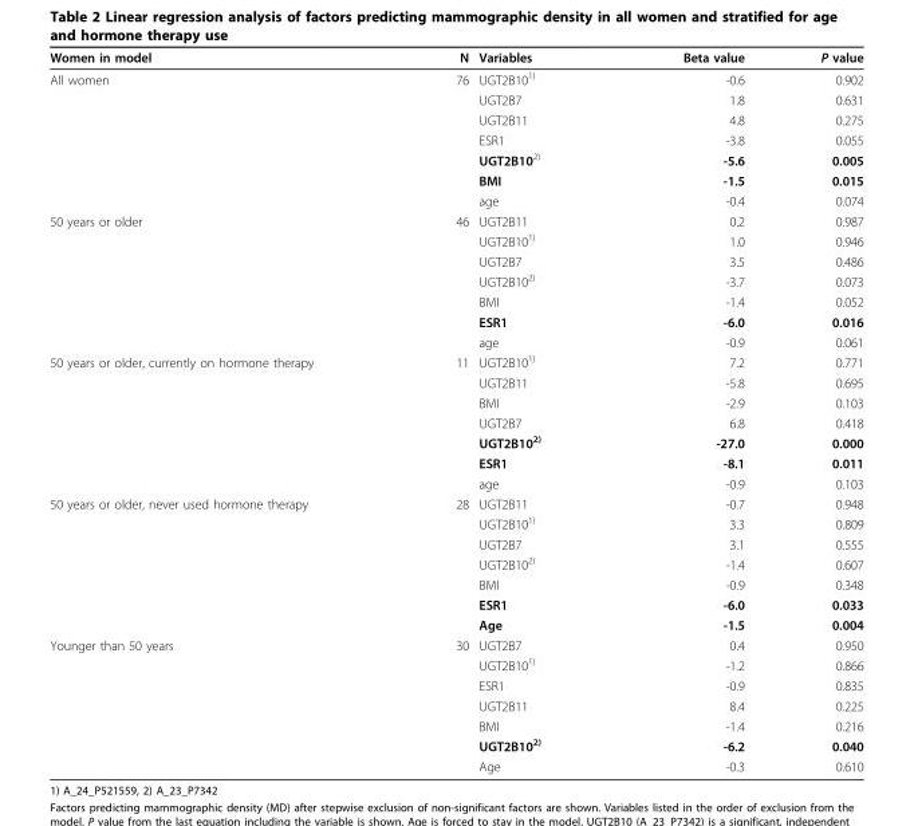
<table><thead><tr><td>Women in model</td><td>N</td><td>Variables</td><td>Beta value</td><td>P value</td></tr></thead><tbody><tr><td rowspan="7">All women</td><td>76</td><td>UGT2B10<sup>1)</sup></td><td>-0.6</td><td>0.902</td></tr><tr><td></td><td>UGT2B7</td><td>1.8</td><td>0.631</td></tr><tr><td></td><td>UGT2B11</td><td>4.8</td><td>0.275</td></tr><tr><td></td><td>ESR1</td><td>-3.8</td><td>0.055</td></tr><tr><td></td><td>UGT2B10<sup>2)</sup></td><td>-5.6</td><td>0.005</td></tr><tr><td></td><td>BMI</td><td>-1.5</td><td>0.015</td></tr><tr><td></td><td>age</td><td>-0.4</td><td>0.074</td></tr><tr><td rowspan="7">50 years or older</td><td>46</td><td>UGT2B11</td><td>0.2</td><td>0.987</td></tr><tr><td></td><td>UGT2B10<sup>1)</sup></td><td>1.0</td><td>0.946</td></tr><tr><td></td><td>UGT2B7</td><td>3.5</td><td>0.486</td></tr><tr><td></td><td>UGT2B10<sup>2)</sup></td><td>-3.7</td><td>0.073</td></tr><tr><td></td><td>BMI</td><td>-1.4</td><td>0.052</td></tr><tr><td></td><td>ESR1</td><td>-6.0</td><td>0.016</td></tr><tr><td></td><td>age</td><td>-0.9</td><td>0.061</td></tr><tr><td rowspan="7">50 years or older, currently on hormone therapy</td><td>11</td><td>UGT2B10<sup>1)</sup></td><td>7.2</td><td>0.771</td></tr><tr><td></td><td>UGT2B11</td><td>-5.8</td><td>0.695</td></tr><tr><td></td><td>BMI</td><td>-2.9</td><td>0.103</td></tr><tr><td></td><td>UGT2B7</td><td>6.8</td><td>0.418</td></tr><tr><td></td><td>UGT2B10<sup>2)</sup></td><td>-27.0</td><td>0.000</td></tr><tr><td></td><td>ESR1</td><td>-8.1</td><td>0.011</td></tr><tr><td></td><td>age</td><td>-0.9</td><td>0.103</td></tr><tr><td rowspan="7">50 years or older, never used hormone therapy</td><td>28</td><td>UGT2B11</td><td>-0.7</td><td>0.948</td></tr><tr><td></td><td>UGT2B10<sup>1)</sup></td><td>3.3</td><td>0.809</td></tr><tr><td></td><td>UGT2B7</td><td>3.1</td><td>0.555</td></tr><tr><td></td><td>UGT2B10<sup>2)</sup></td><td>-1.4</td><td>0.607</td></tr><tr><td></td><td>BMI</td><td>-0.9</td><td>0.348</td></tr><tr><td></td><td>ESR1</td><td>-6.0</td><td>0.033</td></tr><tr><td></td><td>Age</td><td>-1.5</td><td>0.004</td></tr><tr><td rowspan="7">Younger than 50 years</td><td>30</td><td>UGT2B7</td><td>0.4</td><td>0.950</td></tr><tr><td></td><td>UGT2B10<sup>1)</sup></td><td>-1.2</td><td>0.866</td></tr><tr><td></td><td>ESR1</td><td>-0.9</td><td>0.835</td></tr><tr><td></td><td>UGT2B11</td><td>8.4</td><td>0.225</td></tr><tr><td></td><td>BMI</td><td>-1.4</td><td>0.216</td></tr><tr><td></td><td>UGT2B10<sup>2)</sup></td><td>-6.2</td><td>0.040</td></tr><tr><td></td><td>Age</td><td>-0.3</td><td>0.610</td></tr></tbody></table>